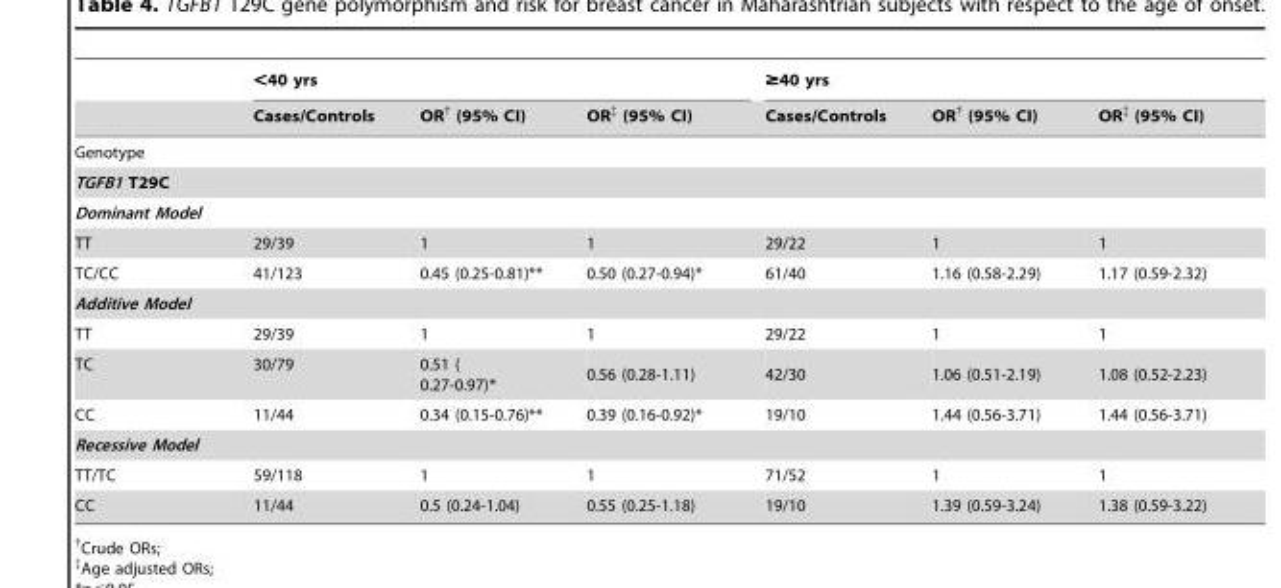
<table><thead><tr><td rowspan="2"></td><td colspan="3">&lt;40 yrs</td><td colspan="3">≥40 yrs</td></tr><tr><td>Cases/Controls</td><td>OR† (95% CI)</td><td>OR‡ (95% CI)</td><td>Cases/Controls</td><td>OR† (95% CI)</td><td>OR‡ (95% CI)</td></tr></thead><tbody><tr><td colspan="7">Genotype</td></tr><tr><td colspan="7">TGFB1 T29C</td></tr><tr><td colspan="7">Dominant Model</td></tr><tr><td>TT</td><td>29/39</td><td>1</td><td>1</td><td>29/22</td><td>1</td><td>1</td></tr><tr><td>TC/CC</td><td>41/123</td><td>0.45 (0.25-0.81)**</td><td>0.50 (0.27-0.94)*</td><td>61/40</td><td>1.16 (0.58-2.29)</td><td>1.17 (0.59-2.32)</td></tr><tr><td colspan="7">Additive Model</td></tr><tr><td>TT</td><td>29/39</td><td>1</td><td>1</td><td>29/22</td><td>1</td><td>1</td></tr><tr><td>TC</td><td>30/79</td><td>0.51 ( 0.27-0.97)*</td><td>0.56 (0.28-1.11)</td><td>42/30</td><td>1.06 (0.51-2.19)</td><td>1.08 (0.52-2.23)</td></tr><tr><td>CC</td><td>11/44</td><td>0.34 (0.15-0.76)**</td><td>0.39 (0.16-0.92)*</td><td>19/10</td><td>1.44 (0.56-3.71)</td><td>1.44 (0.56-3.71)</td></tr><tr><td colspan="7">Recessive Model</td></tr><tr><td>TT/TC</td><td>59/118</td><td>1</td><td>1</td><td>71/52</td><td>1</td><td>1</td></tr><tr><td>CC</td><td>11/44</td><td>0.5 (0.24-1.04)</td><td>0.55 (0.25-1.18)</td><td>19/10</td><td>1.39 (0.59-3.24)</td><td>1.38 (0.59-3.22)</td></tr></tbody></table>